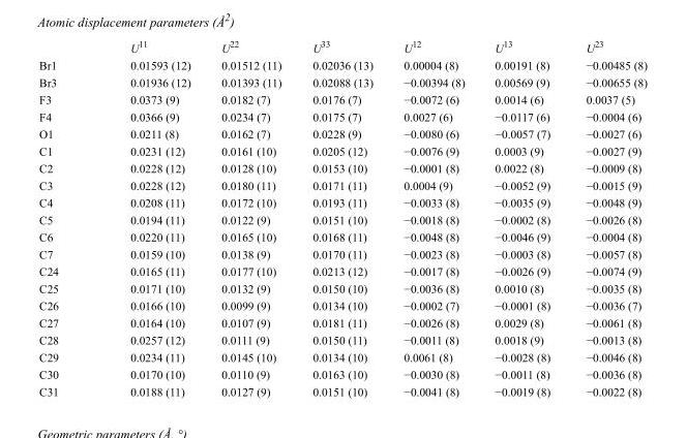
<table><thead><tr><td></td><td>U<sup>11</sup></td><td>U<sup>22</sup></td><td>U<sup>33</sup></td><td>U<sup>12</sup></td><td>U<sup>13</sup></td><td>U<sup>23</sup></td></tr></thead><tbody><tr><td>Br1</td><td>0.01593 (12)</td><td>0.01512 (11)</td><td>0.02036 (13)</td><td>0.00004 (8)</td><td>0.00191 (8)</td><td>−0.00485 (8)</td></tr><tr><td>Br3</td><td>0.01936 (12)</td><td>0.01393 (11)</td><td>0.02088 (13)</td><td>−0.00394 (8)</td><td>0.00569 (9)</td><td>−0.00655 (8)</td></tr><tr><td>F3</td><td>0.0373 (9)</td><td>0.0182 (7)</td><td>0.0176 (7)</td><td>−0.0072 (6)</td><td>0.0014 (6)</td><td>0.0037 (5)</td></tr><tr><td>F4</td><td>0.0366 (9)</td><td>0.0234 (7)</td><td>0.0175 (7)</td><td>0.0027 (6)</td><td>−0.0117 (6)</td><td>−0.0004 (6)</td></tr><tr><td>O1</td><td>0.0211 (8)</td><td>0.0162 (7)</td><td>0.0228 (9)</td><td>−0.0080 (6)</td><td>−0.0057 (7)</td><td>−0.0027 (6)</td></tr><tr><td>C1</td><td>0.0231 (12)</td><td>0.0161 (10)</td><td>0.0205 (12)</td><td>−0.0076 (9)</td><td>0.0003 (9)</td><td>−0.0027 (9)</td></tr><tr><td>C2</td><td>0.0228 (12)</td><td>0.0128 (10)</td><td>0.0153 (10)</td><td>−0.0001 (8)</td><td>0.0022 (8)</td><td>−0.0009 (8)</td></tr><tr><td>C3</td><td>0.0228 (12)</td><td>0.0180 (11)</td><td>0.0171 (11)</td><td>0.0004 (9)</td><td>−0.0052 (9)</td><td>−0.0015 (9)</td></tr><tr><td>C4</td><td>0.0208 (11)</td><td>0.0172 (10)</td><td>0.0193 (11)</td><td>−0.0033 (8)</td><td>−0.0035 (9)</td><td>−0.0048 (9)</td></tr><tr><td>C5</td><td>0.0194 (11)</td><td>0.0122 (9)</td><td>0.0151 (10)</td><td>−0.0018 (8)</td><td>−0.0002 (8)</td><td>−0.0026 (8)</td></tr><tr><td>C6</td><td>0.0220 (11)</td><td>0.0165 (10)</td><td>0.0168 (11)</td><td>−0.0048 (8)</td><td>−0.0046 (9)</td><td>−0.0004 (8)</td></tr><tr><td>C7</td><td>0.0159 (10)</td><td>0.0138 (9)</td><td>0.0170 (11)</td><td>−0.0023 (8)</td><td>−0.0003 (8)</td><td>−0.0057 (8)</td></tr><tr><td>C24</td><td>0.0165 (11)</td><td>0.0177 (10)</td><td>0.0213 (12)</td><td>−0.0017 (8)</td><td>−0.0026 (9)</td><td>−0.0074 (9)</td></tr><tr><td>C25</td><td>0.0171 (10)</td><td>0.0132 (9)</td><td>0.0150 (10)</td><td>−0.0036 (8)</td><td>0.0010 (8)</td><td>−0.0035 (8)</td></tr><tr><td>C26</td><td>0.0166 (10)</td><td>0.0099 (9)</td><td>0.0134 (10)</td><td>−0.0002 (7)</td><td>−0.0001 (8)</td><td>−0.0036 (7)</td></tr><tr><td>C27</td><td>0.0164 (10)</td><td>0.0107 (9)</td><td>0.0181 (11)</td><td>−0.0026 (8)</td><td>0.0029 (8)</td><td>−0.0061 (8)</td></tr><tr><td>C28</td><td>0.0257 (12)</td><td>0.0111 (9)</td><td>0.0150 (11)</td><td>−0.0011 (8)</td><td>0.0018 (9)</td><td>−0.0013 (8)</td></tr><tr><td>C29</td><td>0.0234 (11)</td><td>0.0145 (10)</td><td>0.0134 (10)</td><td>0.0061 (8)</td><td>−0.0028 (8)</td><td>−0.0046 (8)</td></tr><tr><td>C30</td><td>0.0170 (10)</td><td>0.0110 (9)</td><td>0.0163 (10)</td><td>−0.0030 (8)</td><td>−0.0011 (8)</td><td>−0.0036 (8)</td></tr><tr><td>C31</td><td>0.0188 (11)</td><td>0.0127 (9)</td><td>0.0151 (10)</td><td>−0.0041 (8)</td><td>−0.0019 (8)</td><td>−0.0022 (8)</td></tr></tbody></table>